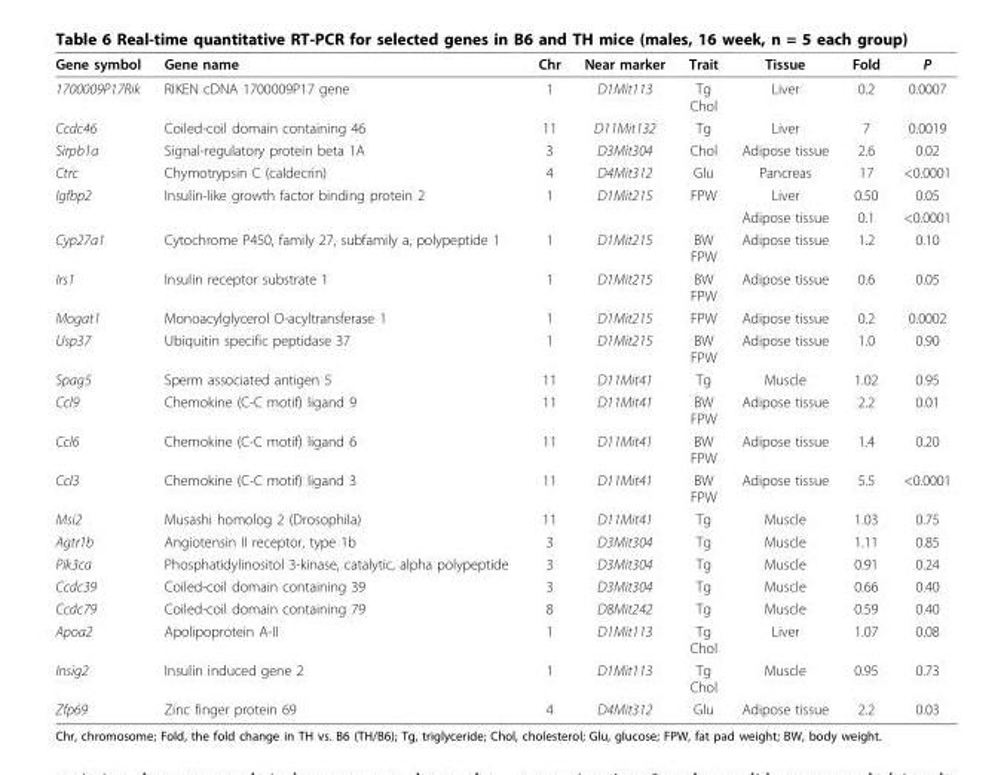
<table><thead><tr><td>Gene symbol</td><td>Gene name</td><td>Chr</td><td>Near marker</td><td>Trait</td><td>Tissue</td><td>Fold</td><td>P</td></tr></thead><tbody><tr><td>1700009P17Rik</td><td>RIKEN cDNA 1700009P17 gene</td><td>1</td><td>D1Mit113</td><td>Tg Chol</td><td>Liver</td><td>0.2</td><td>0.0007</td></tr><tr><td>Ccdc46</td><td>Coiled-coil domain containing 46</td><td>11</td><td>D11Mit132</td><td>Tg</td><td>Liver</td><td>7</td><td>0.0019</td></tr><tr><td>Sirpb1a</td><td>Signal-regulatory protein beta 1A</td><td>3</td><td>D3Mit304</td><td>Chol</td><td>Adipose tissue</td><td>2.6</td><td>0.02</td></tr><tr><td>Ctrc</td><td>Chymotrypsin C (caldecrin)</td><td>4</td><td>D4Mit312</td><td>Glu</td><td>Pancreas</td><td>17</td><td>&lt;0.0001</td></tr><tr><td rowspan="2">Igfbp2</td><td>Insulin-like growth factor binding protein 2</td><td>1</td><td>D1Mit215</td><td>FPW</td><td>Liver</td><td>0.50</td><td>0.05</td></tr><tr><td></td><td></td><td></td><td></td><td>Adipose tissue</td><td>0.1</td><td>&lt;0.0001</td></tr><tr><td>Cyp27a1</td><td>Cytochrome P450, family 27, subfamily a, polypeptide 1</td><td>1</td><td>D1Mit215</td><td>BW FPW</td><td>Adipose tissue</td><td>1.2</td><td>0.10</td></tr><tr><td>Irs1</td><td>Insulin receptor substrate 1</td><td>1</td><td>D1Mit215</td><td>BW FPW</td><td>Adipose tissue</td><td>0.6</td><td>0.05</td></tr><tr><td>Mogat1</td><td>Monoacylglycerol O-acyltransferase 1</td><td>1</td><td>D1Mit215</td><td>FPW</td><td>Adipose tissue</td><td>0.2</td><td>0.0002</td></tr><tr><td>Usp37</td><td>Ubiquitin specific peptidase 37</td><td>1</td><td>D1Mit215</td><td>BW FPW</td><td>Adipose tissue</td><td>1.0</td><td>0.90</td></tr><tr><td>Spag5</td><td>Sperm associated antigen 5</td><td>11</td><td>D11Mit41</td><td>Tg</td><td>Muscle</td><td>1.02</td><td>0.95</td></tr><tr><td>Ccl9</td><td>Chemokine (C-C motif) ligand 9</td><td>11</td><td>D11Mit41</td><td>BW FPW</td><td>Adipose tissue</td><td>2.2</td><td>0.01</td></tr><tr><td>Ccl6</td><td>Chemokine (C-C motif) ligand 6</td><td>11</td><td>D11Mit41</td><td>BW FPW</td><td>Adipose tissue</td><td>1.4</td><td>0.20</td></tr><tr><td>Ccl3</td><td>Chemokine (C-C motif) ligand 3</td><td>11</td><td>D11Mit41</td><td>BW FPW</td><td>Adipose tissue</td><td>5.5</td><td>&lt;0.0001</td></tr><tr><td>Msi2</td><td>Musashi homolog 2 (Drosophila)</td><td>11</td><td>D11Mit41</td><td>Tg</td><td>Muscle</td><td>1.03</td><td>0.75</td></tr><tr><td>Agtr1b</td><td>Angiotensin II receptor, type 1b</td><td>3</td><td>D3Mit304</td><td>Tg</td><td>Muscle</td><td>1.11</td><td>0.85</td></tr><tr><td>Pik3ca</td><td>Phosphatidylinositol 3-kinase, catalytic, alpha polypeptide</td><td>3</td><td>D3Mit304</td><td>Tg</td><td>Muscle</td><td>0.91</td><td>0.24</td></tr><tr><td>Ccdc39</td><td>Coiled-coil domain containing 39</td><td>3</td><td>D3Mit304</td><td>Tg</td><td>Muscle</td><td>0.66</td><td>0.40</td></tr><tr><td>Ccdc79</td><td>Coiled-coil domain containing 79</td><td>8</td><td>D8Mit242</td><td>Tg</td><td>Muscle</td><td>0.59</td><td>0.40</td></tr><tr><td>Apoa2</td><td>Apolipoprotein A-II</td><td>1</td><td>D1Mit113</td><td>Tg Chol</td><td>Liver</td><td>1.07</td><td>0.08</td></tr><tr><td>Insig2</td><td>Insulin induced gene 2</td><td>1</td><td>D1Mit113</td><td>Tg Chol</td><td>Muscle</td><td>0.95</td><td>0.73</td></tr><tr><td>Zfp69</td><td>Zinc finger protein 69</td><td>4</td><td>D4Mit312</td><td>Glu</td><td>Adipose tissue</td><td>2.2</td><td>0.03</td></tr></tbody></table>